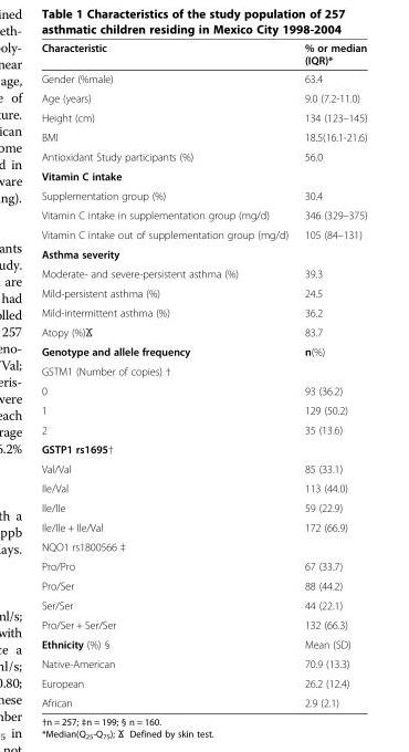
<table><thead><tr><td>Characteristic</td><td>% or median (IQR)*</td></tr></thead><tbody><tr><td>Gender (%male)</td><td>63.4</td></tr><tr><td>Age (years)</td><td>9.0 (7.2-11.0)</td></tr><tr><td>Height (cm)</td><td>134 (123–145)</td></tr><tr><td>BMI</td><td>18.5(16.1-21.6)</td></tr><tr><td>Antioxidant Study participants (%)</td><td>56.0</td></tr><tr><td colspan="2">Vitamin C intake</td></tr><tr><td>Supplementation group (%)</td><td>30.4</td></tr><tr><td>Vitamin C intake in supplementation group (mg/d)</td><td>346 (329–375)</td></tr><tr><td>Vitamin C intake out of supplementation group (mg/d)</td><td>105 (84–131)</td></tr><tr><td colspan="2">Asthma severity</td></tr><tr><td>Moderate- and severe-persistent asthma (%)</td><td>39.3</td></tr><tr><td>Mild-persistent asthma (%)</td><td>24.5</td></tr><tr><td>Mild-intermittent asthma (%)</td><td>36.2</td></tr><tr><td>Atopy (%)Ϫ</td><td>83.7</td></tr><tr><td>Genotype and allele frequency</td><td>n(%)</td></tr><tr><td colspan="2">GSTM1 (Number of copies) †</td></tr><tr><td>0</td><td>93 (36.2)</td></tr><tr><td>1</td><td>129 (50.2)</td></tr><tr><td>2</td><td>35 (13.6)</td></tr><tr><td colspan="2">GSTP1 rs1695†</td></tr><tr><td>Val/Val</td><td>85 (33.1)</td></tr><tr><td>Ile/Val</td><td>113 (44.0)</td></tr><tr><td>Ile/Ile</td><td>59 (22.9)</td></tr><tr><td>Ile/Ile + Ile/Val</td><td>172 (66.9)</td></tr><tr><td colspan="2">NQO1 rs1800566 ‡</td></tr><tr><td>Pro/Pro</td><td>67 (33.7)</td></tr><tr><td>Pro/Ser</td><td>88 (44.2)</td></tr><tr><td>Ser/Ser</td><td>44 (22.1)</td></tr><tr><td>Pro/Ser + Ser/Ser</td><td>132 (66.3)</td></tr><tr><td>Ethnicity (%) §</td><td>Mean (SD)</td></tr><tr><td>Native-American</td><td>70.9 (13.3)</td></tr><tr><td>European</td><td>26.2 (12.4)</td></tr><tr><td>African</td><td>2.9 (2.1)</td></tr></tbody></table>